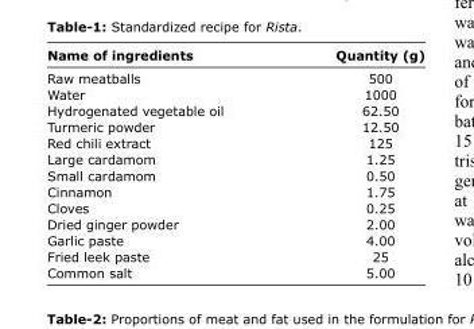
<table><thead><tr><td>Name of ingredients</td><td>Quantity (g)</td></tr></thead><tbody><tr><td>Raw meatballs</td><td>500</td></tr><tr><td>Water</td><td>1000</td></tr><tr><td>Hydrogenated vegetable oil</td><td>62.50</td></tr><tr><td>Turmeric powder</td><td>12.50</td></tr><tr><td>Red chili extract</td><td>125</td></tr><tr><td>Large cardamom</td><td>1.25</td></tr><tr><td>Small cardamom</td><td>0.50</td></tr><tr><td>Cinnamon</td><td>1.75</td></tr><tr><td>Cloves</td><td>0.25</td></tr><tr><td>Dried ginger powder</td><td>2.00</td></tr><tr><td>Garlic paste</td><td>4.00</td></tr><tr><td>Fried leek paste</td><td>25</td></tr><tr><td>Common salt</td><td>5.00</td></tr></tbody></table>